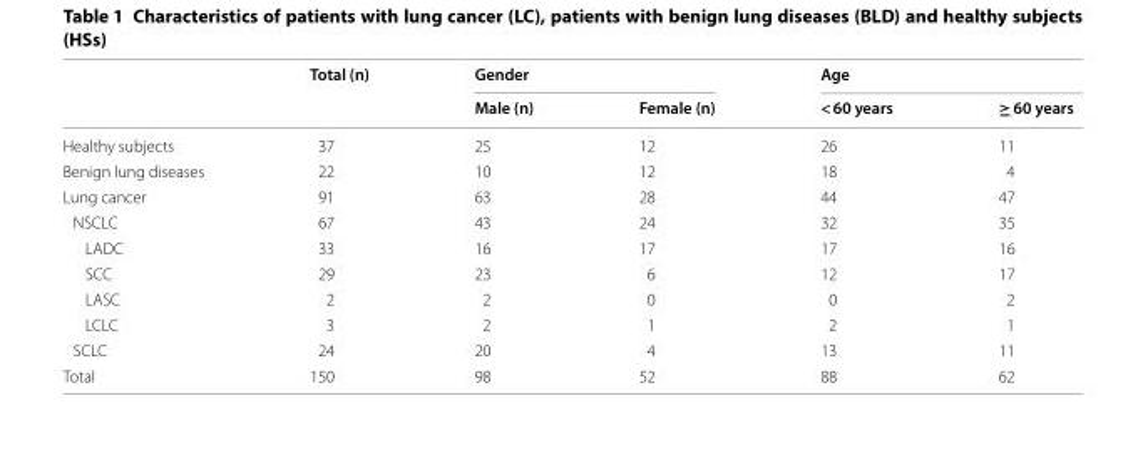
<table><thead><tr><td rowspan="2"></td><td rowspan="2">Total (n)</td><td colspan="2">Gender</td><td colspan="2">Age</td></tr><tr><td>Male (n)</td><td>Female (n)</td><td>&lt; 60 years</td><td>≥ 60 years</td></tr></thead><tbody><tr><td>Healthy subjects</td><td>37</td><td>25</td><td>12</td><td>26</td><td>11</td></tr><tr><td>Benign lung diseases</td><td>22</td><td>10</td><td>12</td><td>18</td><td>4</td></tr><tr><td>Lung cancer</td><td>91</td><td>63</td><td>28</td><td>44</td><td>47</td></tr><tr><td>NSCLC</td><td>67</td><td>43</td><td>24</td><td>32</td><td>35</td></tr><tr><td>LADC</td><td>33</td><td>16</td><td>17</td><td>17</td><td>16</td></tr><tr><td>SCC</td><td>29</td><td>23</td><td>6</td><td>12</td><td>17</td></tr><tr><td>LASC</td><td>2</td><td>2</td><td>0</td><td>0</td><td>2</td></tr><tr><td>LCLC</td><td>3</td><td>2</td><td>1</td><td>2</td><td>1</td></tr><tr><td>SCLC</td><td>24</td><td>20</td><td>4</td><td>13</td><td>11</td></tr><tr><td>Total</td><td>150</td><td>98</td><td>52</td><td>88</td><td>62</td></tr></tbody></table>